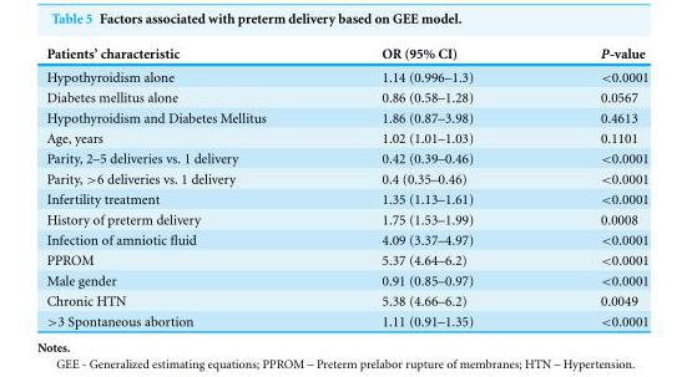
<table><thead><tr><td>Patients’ characteristic</td><td>OR (95% CI)</td><td>P-value</td></tr></thead><tbody><tr><td>Hypothyroidism alone</td><td>1.14 (0.996–1.3)</td><td>&lt;0.0001</td></tr><tr><td>Diabetes mellitus alone</td><td>0.86 (0.58–1.28)</td><td>0.0567</td></tr><tr><td>Hypothyroidism and Diabetes Mellitus</td><td>1.86 (0.87–3.98)</td><td>0.4613</td></tr><tr><td>Age, years</td><td>1.02 (1.01–1.03)</td><td>0.1101</td></tr><tr><td>Parity, 2–5 deliveries vs. 1 delivery</td><td>0.42 (0.39–0.46)</td><td>&lt;0.0001</td></tr><tr><td>Parity, &gt;6 deliveries vs. 1 delivery</td><td>0.4 (0.35–0.46)</td><td>&lt;0.0001</td></tr><tr><td>Infertility treatment</td><td>1.35 (1.13–1.61)</td><td>&lt;0.0001</td></tr><tr><td>History of preterm delivery</td><td>1.75 (1.53–1.99)</td><td>0.0008</td></tr><tr><td>Infection of amniotic fluid</td><td>4.09 (3.37–4.97)</td><td>&lt;0.0001</td></tr><tr><td>PPROM</td><td>5.37 (4.64–6.2)</td><td>&lt;0.0001</td></tr><tr><td>Male gender</td><td>0.91 (0.85–0.97)</td><td>&lt;0.0001</td></tr><tr><td>Chronic HTN</td><td>5.38 (4.66–6.2)</td><td>0.0049</td></tr><tr><td>&gt;3 Spontaneous abortion</td><td>1.11 (0.91–1.35)</td><td>&lt;0.0001</td></tr></tbody></table>